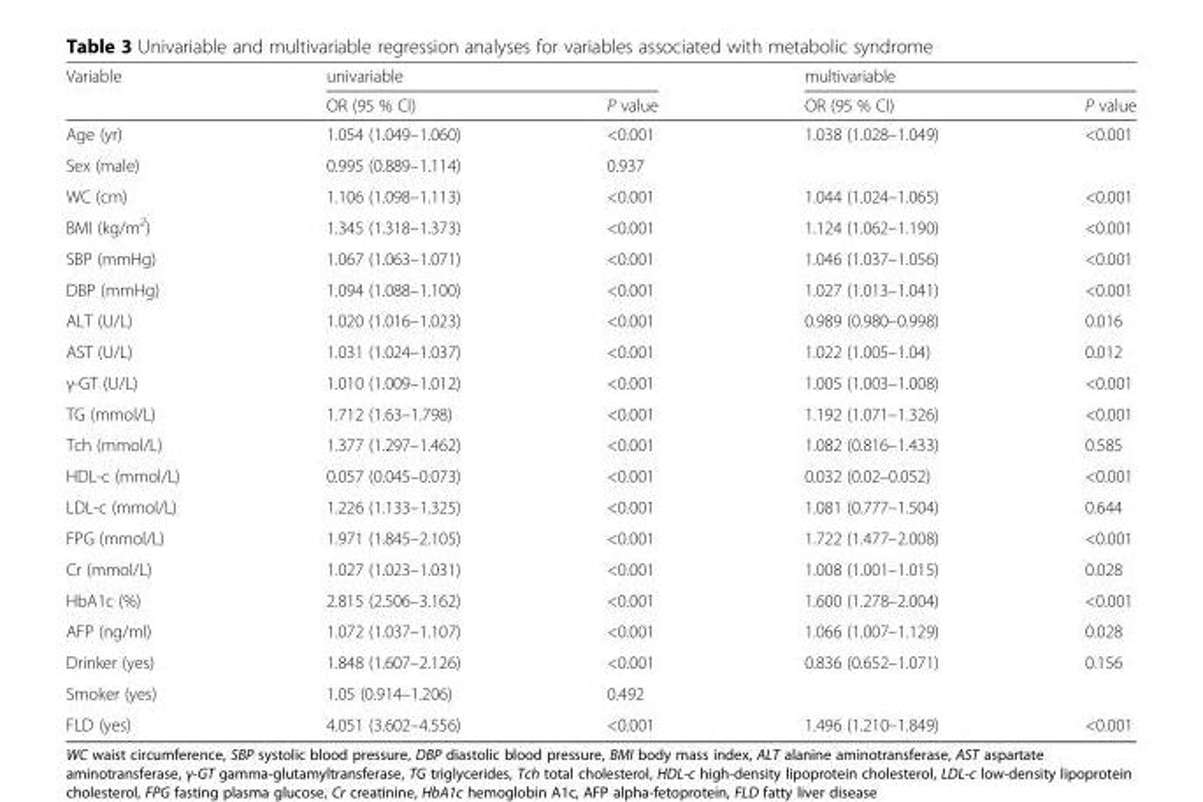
<table><thead><tr><td rowspan="2">Variable</td><td colspan="2">univariable</td><td colspan="2">multivariable</td></tr><tr><td>OR (95 % CI)</td><td>P value</td><td>OR (95 % CI)</td><td>P value</td></tr></thead><tbody><tr><td>Age (yr)</td><td>1.054 (1.049–1.060)</td><td>&lt;0.001</td><td>1.038 (1.028–1.049)</td><td>&lt;0.001</td></tr><tr><td>Sex (male)</td><td>0.995 (0.889–1.114)</td><td>0.937</td><td></td><td></td></tr><tr><td>WC (cm)</td><td>1.106 (1.098–1.113)</td><td>&lt;0.001</td><td>1.044 (1.024–1.065)</td><td>&lt;0.001</td></tr><tr><td>BMI (kg/m<sup>2</sup>)</td><td>1.345 (1.318–1.373)</td><td>&lt;0.001</td><td>1.124 (1.062–1.190)</td><td>&lt;0.001</td></tr><tr><td>SBP (mmHg)</td><td>1.067 (1.063–1.071)</td><td>&lt;0.001</td><td>1.046 (1.037–1.056)</td><td>&lt;0.001</td></tr><tr><td>DBP (mmHg)</td><td>1.094 (1.088–1.100)</td><td>&lt;0.001</td><td>1.027 (1.013–1.041)</td><td>&lt;0.001</td></tr><tr><td>ALT (U/L)</td><td>1.020 (1.016–1.023)</td><td>&lt;0.001</td><td>0.989 (0.980–0.998)</td><td>0.016</td></tr><tr><td>AST (U/L)</td><td>1.031 (1.024–1.037)</td><td>&lt;0.001</td><td>1.022 (1.005–1.04)</td><td>0.012</td></tr><tr><td>γ-GT (U/L)</td><td>1.010 (1.009–1.012)</td><td>&lt;0.001</td><td>1.005 (1.003–1.008)</td><td>&lt;0.001</td></tr><tr><td>TG (mmol/L)</td><td>1.712 (1.63–1.798)</td><td>&lt;0.001</td><td>1.192 (1.071–1.326)</td><td>&lt;0.001</td></tr><tr><td>Tch (mmol/L)</td><td>1.377 (1.297–1.462)</td><td>&lt;0.001</td><td>1.082 (0.816–1.433)</td><td>0.585</td></tr><tr><td>HDL-c (mmol/L)</td><td>0.057 (0.045–0.073)</td><td>&lt;0.001</td><td>0.032 (0.02–0.052)</td><td>&lt;0.001</td></tr><tr><td>LDL-c (mmol/L)</td><td>1.226 (1.133–1.325)</td><td>&lt;0.001</td><td>1.081 (0.777–1.504)</td><td>0.644</td></tr><tr><td>FPG (mmol/L)</td><td>1.971 (1.845–2.105)</td><td>&lt;0.001</td><td>1.722 (1.477–2.008)</td><td>&lt;0.001</td></tr><tr><td>Cr (mmol/L)</td><td>1.027 (1.023–1.031)</td><td>&lt;0.001</td><td>1.008 (1.001–1.015)</td><td>0.028</td></tr><tr><td>HbA1c (%)</td><td>2.815 (2.506–3.162)</td><td>&lt;0.001</td><td>1.600 (1.278–2.004)</td><td>&lt;0.001</td></tr><tr><td>AFP (ng/ml)</td><td>1.072 (1.037–1.107)</td><td>&lt;0.001</td><td>1.066 (1.007–1.129)</td><td>0.028</td></tr><tr><td>Drinker (yes)</td><td>1.848 (1.607–2.126)</td><td>&lt;0.001</td><td>0.836 (0.652–1.071)</td><td>0.156</td></tr><tr><td>Smoker (yes)</td><td>1.05 (0.914–1.206)</td><td>0.492</td><td></td><td></td></tr><tr><td>FLD (yes)</td><td>4.051 (3.602–4.556)</td><td>&lt;0.001</td><td>1.496 (1.210–1.849)</td><td>&lt;0.001</td></tr></tbody></table>